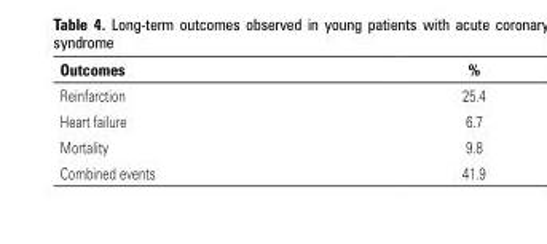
<table><thead><tr><td>outcomes</td><td>%</td></tr></thead><tbody><tr><td>Reinfarction</td><td>25.4</td></tr><tr><td>Heart failure</td><td>6.7</td></tr><tr><td>Mortality</td><td>9.8</td></tr><tr><td>Combined events</td><td>41.9</td></tr></tbody></table>